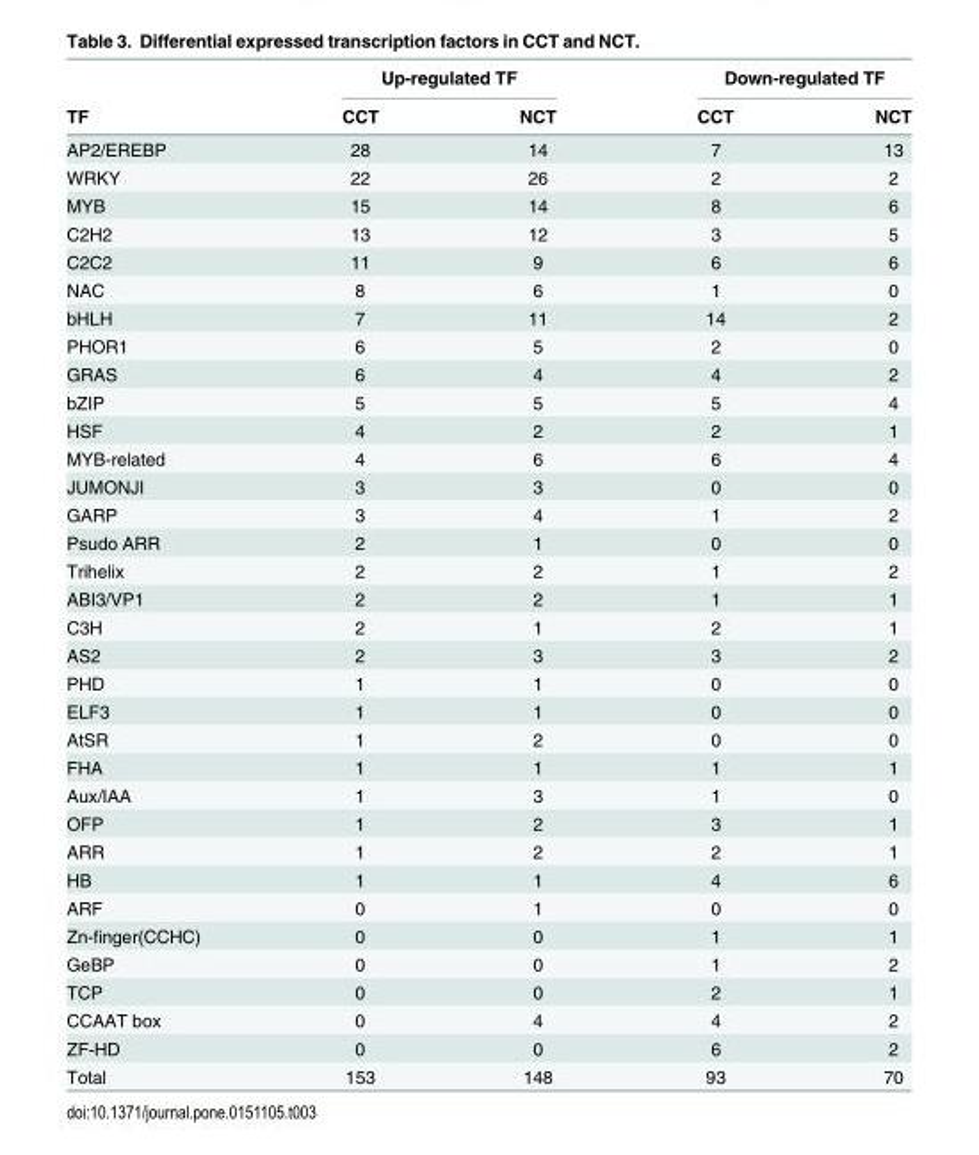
<table><thead><tr><td rowspan="2">TF</td><td colspan="2">Up-regulated TF</td><td colspan="2">Down-regulated TF</td></tr><tr><td>CCT</td><td>NCT</td><td>CCT</td><td>NCT</td></tr></thead><tbody><tr><td>AP2/EREBP</td><td>28</td><td>14</td><td>7</td><td>13</td></tr><tr><td>WRKY</td><td>22</td><td>26</td><td>2</td><td>2</td></tr><tr><td>MYB</td><td>15</td><td>14</td><td>8</td><td>6</td></tr><tr><td>C2H2</td><td>13</td><td>12</td><td>3</td><td>5</td></tr><tr><td>C2C2</td><td>11</td><td>9</td><td>6</td><td>6</td></tr><tr><td>NAC</td><td>8</td><td>6</td><td>1</td><td>0</td></tr><tr><td>bHLH</td><td>7</td><td>11</td><td>14</td><td>2</td></tr><tr><td>PHOR1</td><td>6</td><td>5</td><td>2</td><td>0</td></tr><tr><td>GRAS</td><td>6</td><td>4</td><td>4</td><td>2</td></tr><tr><td>bZIP</td><td>5</td><td>5</td><td>5</td><td>4</td></tr><tr><td>HSF</td><td>4</td><td>2</td><td>2</td><td>1</td></tr><tr><td>MYB-related</td><td>4</td><td>6</td><td>6</td><td>4</td></tr><tr><td>JUMONJI</td><td>3</td><td>3</td><td>0</td><td>0</td></tr><tr><td>GARP</td><td>3</td><td>4</td><td>1</td><td>2</td></tr><tr><td>Psudo ARR</td><td>2</td><td>1</td><td>0</td><td>0</td></tr><tr><td>Trihelix</td><td>2</td><td>2</td><td>1</td><td>2</td></tr><tr><td>ABI3/VP1</td><td>2</td><td>2</td><td>1</td><td>1</td></tr><tr><td>C3H</td><td>2</td><td>1</td><td>2</td><td>1</td></tr><tr><td>AS2</td><td>2</td><td>3</td><td>3</td><td>2</td></tr><tr><td>PHD</td><td>1</td><td>1</td><td>0</td><td>0</td></tr><tr><td>ELF3</td><td>1</td><td>1</td><td>0</td><td>0</td></tr><tr><td>AtSR</td><td>1</td><td>2</td><td>0</td><td>0</td></tr><tr><td>FHA</td><td>1</td><td>1</td><td>1</td><td>1</td></tr><tr><td>Aux/IAA</td><td>1</td><td>3</td><td>1</td><td>0</td></tr><tr><td>OFP</td><td>1</td><td>2</td><td>3</td><td>1</td></tr><tr><td>ARR</td><td>1</td><td>2</td><td>2</td><td>1</td></tr><tr><td>HB</td><td>1</td><td>1</td><td>4</td><td>6</td></tr><tr><td>ARF</td><td>0</td><td>1</td><td>0</td><td>0</td></tr><tr><td>Zn-finger(CCHC)</td><td>0</td><td>0</td><td>1</td><td>1</td></tr><tr><td>GeBP</td><td>0</td><td>0</td><td>1</td><td>2</td></tr><tr><td>TCP</td><td>0</td><td>0</td><td>2</td><td>1</td></tr><tr><td>CCAAT box</td><td>0</td><td>4</td><td>4</td><td>2</td></tr><tr><td>ZF-HD</td><td>0</td><td>0</td><td>6</td><td>2</td></tr><tr><td>Total</td><td>153</td><td>148</td><td>93</td><td>70</td></tr></tbody></table>